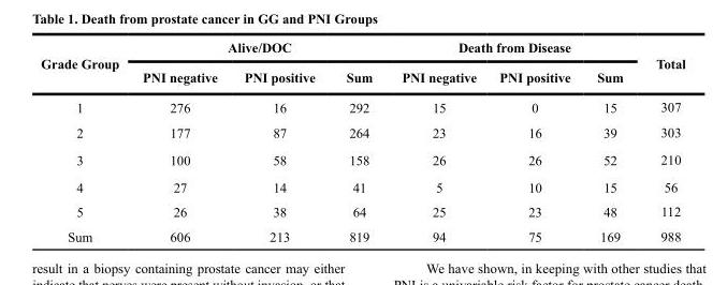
<table><thead><tr><td rowspan="2">Grade Group</td><td colspan="3">Alive/DOC</td><td colspan="3">Death from Disease</td><td rowspan="2">Total</td></tr><tr><td>PNI negative</td><td>PNI positive</td><td>Sum</td><td>PNI negative</td><td>PNI positive</td><td>Sum</td></tr></thead><tbody><tr><td>1</td><td>276</td><td>16</td><td>292</td><td>15</td><td>0</td><td>15</td><td>307</td></tr><tr><td>2</td><td>177</td><td>87</td><td>264</td><td>23</td><td>16</td><td>39</td><td>303</td></tr><tr><td>3</td><td>100</td><td>58</td><td>158</td><td>26</td><td>26</td><td>52</td><td>210</td></tr><tr><td>4</td><td>27</td><td>14</td><td>41</td><td>5</td><td>10</td><td>15</td><td>56</td></tr><tr><td>5</td><td>26</td><td>38</td><td>64</td><td>25</td><td>23</td><td>48</td><td>112</td></tr><tr><td>Sum</td><td>606</td><td>213</td><td>819</td><td>94</td><td>75</td><td>169</td><td>988</td></tr></tbody></table>